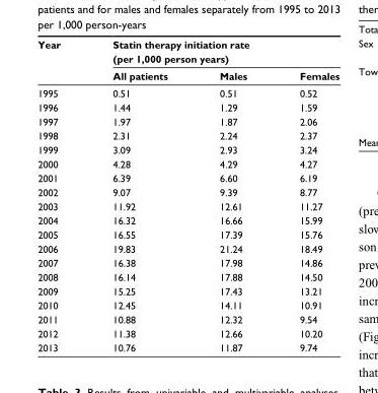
<table><thead><tr><td rowspan="2">Year</td><td colspan="3">Statin therapy initiation rate (per 1,000 person years)</td></tr><tr><td>All patients</td><td>Males</td><td>Females</td></tr></thead><tbody><tr><td>1995</td><td>0.51</td><td>0.51</td><td>0.52</td></tr><tr><td>1996</td><td>1.44</td><td>1.29</td><td>1.59</td></tr><tr><td>1997</td><td>1.97</td><td>1.87</td><td>2.06</td></tr><tr><td>1998</td><td>2.31</td><td>2.24</td><td>2.37</td></tr><tr><td>1999</td><td>3.09</td><td>2.93</td><td>3.24</td></tr><tr><td>2000</td><td>4.28</td><td>4.29</td><td>4.27</td></tr><tr><td>2001</td><td>6.39</td><td>6.60</td><td>6.19</td></tr><tr><td>2002</td><td>9.07</td><td>9.39</td><td>8.77</td></tr><tr><td>2003</td><td>11.92</td><td>12.61</td><td>11.27</td></tr><tr><td>2004</td><td>16.32</td><td>16.66</td><td>15.99</td></tr><tr><td>2005</td><td>16.55</td><td>17.39</td><td>15.76</td></tr><tr><td>2006</td><td>19.83</td><td>21.24</td><td>18.49</td></tr><tr><td>2007</td><td>16.38</td><td>17.98</td><td>14.86</td></tr><tr><td>2008</td><td>16.14</td><td>17.88</td><td>14.50</td></tr><tr><td>2009</td><td>15.25</td><td>17.43</td><td>13.21</td></tr><tr><td>2010</td><td>12.45</td><td>14.11</td><td>10.91</td></tr><tr><td>2011</td><td>10.88</td><td>12.32</td><td>9.54</td></tr><tr><td>2012</td><td>11.38</td><td>12.66</td><td>10.20</td></tr><tr><td>2013</td><td>10.76</td><td>11.87</td><td>9.74</td></tr></tbody></table>